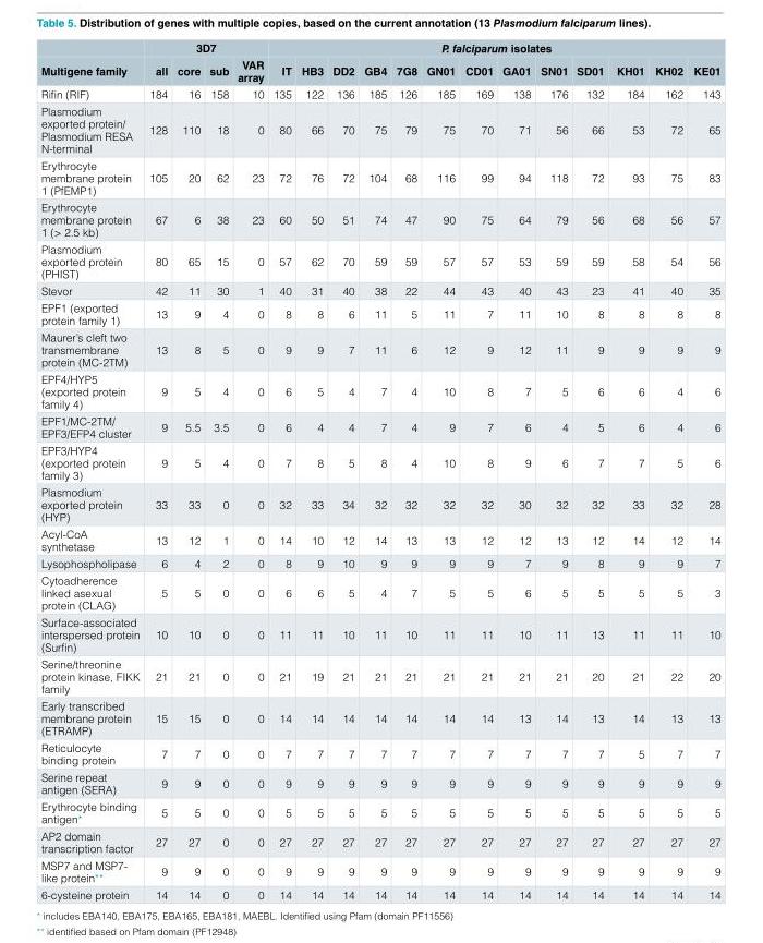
<table><thead><tr><td rowspan="2">Multigene family</td><td colspan="4">3D7</td><td colspan="13">P. falciparum isolates</td></tr><tr><td>all</td><td>core</td><td>sub</td><td>VAR array</td><td>IT</td><td>HB3</td><td>DD2</td><td>GB4</td><td>7G8</td><td>GN01</td><td>CD01</td><td>GA01</td><td>SN01</td><td>SD01</td><td>KH01</td><td>KH02</td><td>KE01</td></tr></thead><tbody><tr><td>Rifin (RIF)</td><td>184</td><td>16</td><td>158</td><td>10</td><td>135</td><td>122</td><td>136</td><td>185</td><td>126</td><td>185</td><td>169</td><td>138</td><td>176</td><td>132</td><td>184</td><td>162</td><td>143</td></tr><tr><td>Plasmodium exported protein/ Plasmodium RESA N-terminal</td><td>128</td><td>110</td><td>18</td><td>0</td><td>80</td><td>66</td><td>70</td><td>75</td><td>79</td><td>75</td><td>70</td><td>71</td><td>56</td><td>66</td><td>53</td><td>72</td><td>65</td></tr><tr><td>Erythrocyte membrane protein 1 (PfEMP1)</td><td>105</td><td>20</td><td>62</td><td>23</td><td>72</td><td>76</td><td>72</td><td>104</td><td>68</td><td>116</td><td>99</td><td>94</td><td>118</td><td>72</td><td>93</td><td>75</td><td>83</td></tr><tr><td>Erythrocyte membrane protein 1 (&gt; 2.5 kb)</td><td>67</td><td>6</td><td>38</td><td>23</td><td>60</td><td>50</td><td>51</td><td>74</td><td>47</td><td>90</td><td>75</td><td>64</td><td>79</td><td>56</td><td>68</td><td>56</td><td>57</td></tr><tr><td>Plasmodium exported protein (PHIST)</td><td>80</td><td>65</td><td>15</td><td>0</td><td>57</td><td>62</td><td>70</td><td>59</td><td>59</td><td>57</td><td>57</td><td>53</td><td>59</td><td>59</td><td>58</td><td>54</td><td>56</td></tr><tr><td>Stevor</td><td>42</td><td>11</td><td>30</td><td>1</td><td>40</td><td>31</td><td>40</td><td>38</td><td>22</td><td>44</td><td>43</td><td>40</td><td>43</td><td>23</td><td>41</td><td>40</td><td>35</td></tr><tr><td>EPF1 (exported protein family 1)</td><td>13</td><td>9</td><td>4</td><td>0</td><td>8</td><td>8</td><td>6</td><td>11</td><td>5</td><td>11</td><td>7</td><td>11</td><td>10</td><td>8</td><td>8</td><td>8</td><td>8</td></tr><tr><td>Maurer’s cleft two transmembrane protein (MC-2TM)</td><td>13</td><td>8</td><td>5</td><td>0</td><td>9</td><td>9</td><td>7</td><td>11</td><td>6</td><td>12</td><td>9</td><td>12</td><td>11</td><td>9</td><td>9</td><td>9</td><td>9</td></tr><tr><td>EPF4/HYP5 (exported protein family 4)</td><td>9</td><td>5</td><td>4</td><td>0</td><td>6</td><td>5</td><td>4</td><td>7</td><td>4</td><td>10</td><td>8</td><td>7</td><td>5</td><td>6</td><td>6</td><td>4</td><td>6</td></tr><tr><td>EPF1/MC-2TM/ EPF3/EFP4 cluster</td><td>9</td><td>5.5</td><td>3.5</td><td>0</td><td>6</td><td>4</td><td>4</td><td>7</td><td>4</td><td>9</td><td>7</td><td>6</td><td>4</td><td>5</td><td>6</td><td>4</td><td>6</td></tr><tr><td>EPF3/HYP4 (exported protein family 3)</td><td>9</td><td>5</td><td>4</td><td>0</td><td>7</td><td>8</td><td>5</td><td>8</td><td>4</td><td>10</td><td>8</td><td>9</td><td>6</td><td>7</td><td>7</td><td>5</td><td>6</td></tr><tr><td>Plasmodium exported protein (HYP)</td><td>33</td><td>33</td><td>0</td><td>0</td><td>32</td><td>33</td><td>34</td><td>32</td><td>32</td><td>32</td><td>32</td><td>30</td><td>32</td><td>32</td><td>33</td><td>32</td><td>28</td></tr><tr><td>Acyl-CoA synthetase</td><td>13</td><td>12</td><td>1</td><td>0</td><td>14</td><td>10</td><td>12</td><td>14</td><td>13</td><td>13</td><td>12</td><td>12</td><td>13</td><td>12</td><td>14</td><td>12</td><td>14</td></tr><tr><td>Lysophospholipase</td><td>6</td><td>4</td><td>2</td><td>0</td><td>8</td><td>9</td><td>10</td><td>9</td><td>9</td><td>9</td><td>9</td><td>7</td><td>9</td><td>8</td><td>9</td><td>9</td><td>7</td></tr><tr><td>Cytoadherence linked asexual protein (CLAG)</td><td>5</td><td>5</td><td>0</td><td>0</td><td>6</td><td>6</td><td>5</td><td>4</td><td>7</td><td>5</td><td>5</td><td>6</td><td>5</td><td>5</td><td>5</td><td>5</td><td>3</td></tr><tr><td>Surface-associated interspersed protein (Surfin)</td><td>10</td><td>10</td><td>0</td><td>0</td><td>11</td><td>11</td><td>10</td><td>11</td><td>10</td><td>11</td><td>11</td><td>10</td><td>11</td><td>13</td><td>11</td><td>11</td><td>10</td></tr><tr><td>Serine/threonine protein kinase, FIKK family</td><td>21</td><td>21</td><td>0</td><td>0</td><td>21</td><td>19</td><td>21</td><td>21</td><td>21</td><td>21</td><td>21</td><td>21</td><td>21</td><td>20</td><td>21</td><td>22</td><td>20</td></tr><tr><td>Early transcribed membrane protein (ETRAMP)</td><td>15</td><td>15</td><td>0</td><td>0</td><td>14</td><td>14</td><td>14</td><td>14</td><td>14</td><td>14</td><td>14</td><td>13</td><td>14</td><td>13</td><td>14</td><td>13</td><td>13</td></tr><tr><td>Reticulocyte binding protein</td><td>7</td><td>7</td><td>0</td><td>0</td><td>7</td><td>7</td><td>7</td><td>7</td><td>7</td><td>7</td><td>7</td><td>7</td><td>7</td><td>7</td><td>5</td><td>7</td><td>7</td></tr><tr><td>Serine repeat antigen (SERA)</td><td>9</td><td>9</td><td>0</td><td>0</td><td>9</td><td>9</td><td>9</td><td>9</td><td>9</td><td>9</td><td>9</td><td>9</td><td>9</td><td>9</td><td>9</td><td>9</td><td>9</td></tr><tr><td>Erythrocyte binding antigen*</td><td>5</td><td>5</td><td>0</td><td>0</td><td>5</td><td>5</td><td>5</td><td>5</td><td>5</td><td>5</td><td>5</td><td>5</td><td>5</td><td>5</td><td>5</td><td>5</td><td>5</td></tr><tr><td>AP2 domain transcription factor</td><td>27</td><td>27</td><td>0</td><td>0</td><td>27</td><td>27</td><td>27</td><td>27</td><td>27</td><td>27</td><td>27</td><td>27</td><td>27</td><td>27</td><td>27</td><td>27</td><td>27</td></tr><tr><td>MSP7 and MSP7- like protein**</td><td>9</td><td>9</td><td>0</td><td>0</td><td>9</td><td>9</td><td>9</td><td>9</td><td>9</td><td>9</td><td>9</td><td>9</td><td>9</td><td>9</td><td>9</td><td>9</td><td>9</td></tr><tr><td>6-cysteine protein</td><td>14</td><td>14</td><td>0</td><td>0</td><td>14</td><td>14</td><td>14</td><td>14</td><td>14</td><td>14</td><td>14</td><td>14</td><td>14</td><td>14</td><td>14</td><td>14</td><td>14</td></tr></tbody></table>